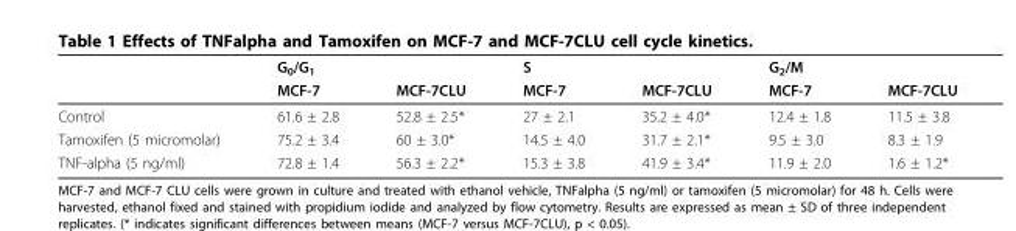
<table><thead><tr><td rowspan="2"></td><td colspan="2">G<sub>0</sub>/G<sub>1</sub></td><td colspan="2">S</td><td colspan="2">G<sub>2</sub>/M</td></tr><tr><td>MCF-7</td><td>MCF-7CLU</td><td>MCF-7</td><td>MCF-7CLU</td><td>MCF-7</td><td>MCF-7CLU</td></tr></thead><tbody><tr><td>Control</td><td>61.6 ± 2.8</td><td>52.8 ± 2.5*</td><td>27 ± 2.1</td><td>35.2 ± 4.0*</td><td>12.4 ± 1.8</td><td>11.5 ± 3.8</td></tr><tr><td>Tamoxifen (5 micromolar)</td><td>75.2 ± 3.4</td><td>60 ± 3.0*</td><td>14.5 ± 4.0</td><td>31.7 ± 2.1*</td><td>9.5 ± 3.0</td><td>8.3 ± 1.9</td></tr><tr><td>TNF-alpha (5 ng/ml)</td><td>72.8 ± 1.4</td><td>56.3 ± 2.2*</td><td>15.3 ± 3.8</td><td>41.9 ± 3.4*</td><td>11.9 ± 2.0</td><td>1.6 ± 1.2*</td></tr></tbody></table>